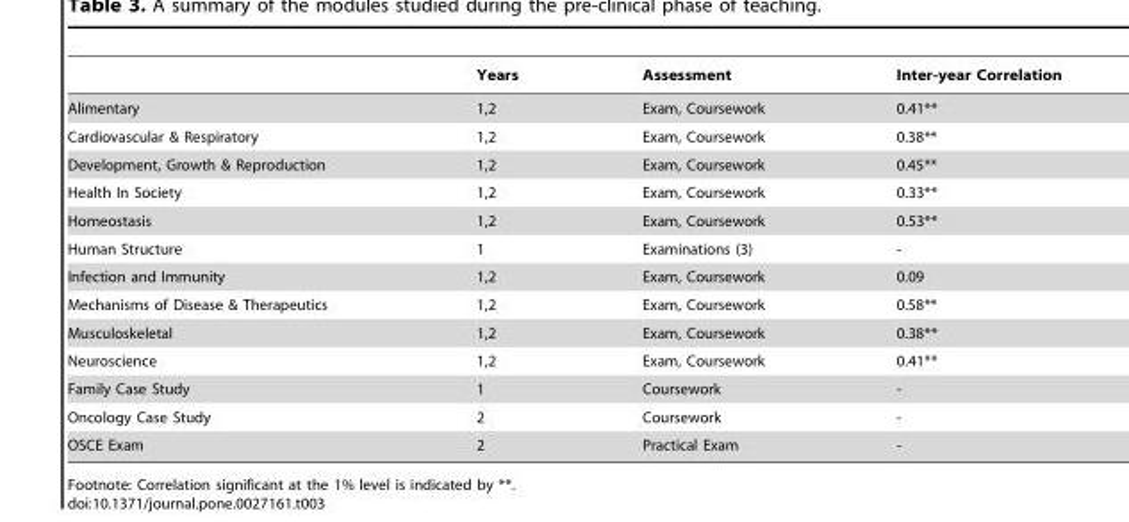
<table><thead><tr><td></td><td>Years</td><td>Assessment</td><td>Inter-year Correlation</td></tr></thead><tbody><tr><td>Alimentary</td><td>1,2</td><td>Exam, Coursework</td><td>0.41**</td></tr><tr><td>Cardiovascular &amp; Respiratory</td><td>1,2</td><td>Exam, Coursework</td><td>0.38**</td></tr><tr><td>Development, Growth &amp; Reproduction</td><td>1,2</td><td>Exam, Coursework</td><td>0.45**</td></tr><tr><td>Health In Society</td><td>1,2</td><td>Exam, Coursework</td><td>0.33**</td></tr><tr><td>Homeostasis</td><td>1,2</td><td>Exam, Coursework</td><td>0.53**</td></tr><tr><td>Human Structure</td><td>1</td><td>Examinations (3)</td><td>-</td></tr><tr><td>Infection and Immunity</td><td>1,2</td><td>Exam, Coursework</td><td>0.09</td></tr><tr><td>Mechanisms of Disease &amp; Therapeutics</td><td>1,2</td><td>Exam, Coursework</td><td>0.58**</td></tr><tr><td>Musculoskeletal</td><td>1,2</td><td>Exam, Coursework</td><td>0.38**</td></tr><tr><td>Neuroscience</td><td>1,2</td><td>Exam, Coursework</td><td>0.41**</td></tr><tr><td>Family Case Study</td><td>1</td><td>Coursework</td><td>-</td></tr><tr><td>Oncology Case Study</td><td>2</td><td>Coursework</td><td>-</td></tr><tr><td>OSCE Exam</td><td>2</td><td>Practical Exam</td><td>-</td></tr></tbody></table>